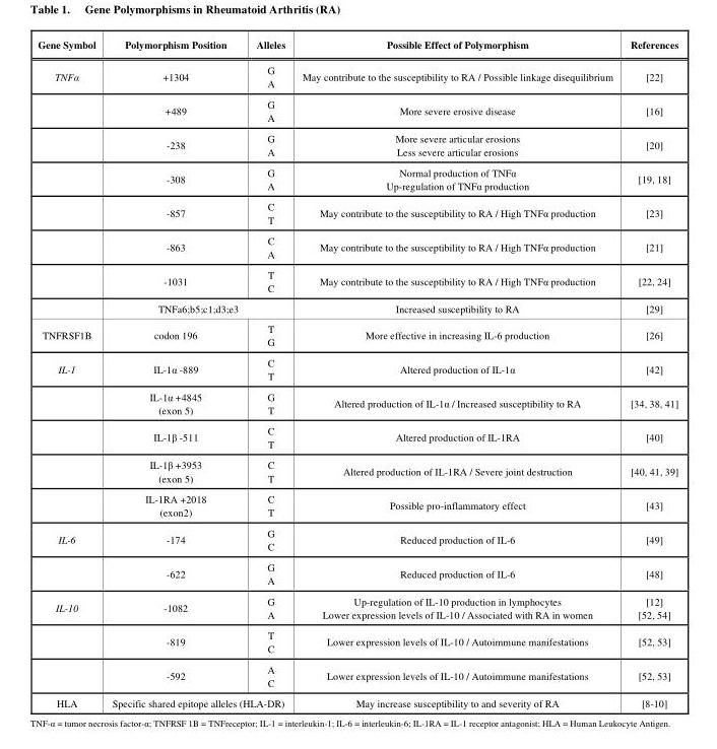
<table><thead><tr><td>Gene Symbol</td><td>Polymorphism Position</td><td>Alleles</td><td>Possible Effect of Polymorphism</td><td>References</td></tr></thead><tbody><tr><td rowspan="8">TNFα</td><td>+1304</td><td>G A</td><td>May contribute to the susceptibility to RA / Possible linkage disequilibrium</td><td>[22]</td></tr><tr><td>+489</td><td>G A</td><td>More severe erosive disease</td><td>[16]</td></tr><tr><td>-238</td><td>G A</td><td>More severe articular erosions Less severe articular erosions</td><td>[20]</td></tr><tr><td>-308</td><td>G A</td><td>Normal production of TNFα Up-regulation of TNFα production</td><td>[19, 18]</td></tr><tr><td>-857</td><td>C T</td><td>May contribute to the susceptibility to RA / High TNFα production</td><td>[23]</td></tr><tr><td>-863</td><td>C A</td><td>May contribute to the susceptibility to RA / High TNFα production</td><td>[21]</td></tr><tr><td>-1031</td><td>T C</td><td>May contribute to the susceptibility to RA / High TNFα production</td><td>[22, 24]</td></tr><tr><td colspan="2">TNFa6;b5;c1;d3;e3</td><td>Increased susceptibility to RA</td><td>[29]</td></tr><tr><td>TNFRSF1B</td><td>codon 196</td><td>T G</td><td>More effective in increasing IL-6 production</td><td>[26]</td></tr><tr><td rowspan="5">IL-1</td><td>IL-1α -889</td><td>C T</td><td>Altered production of IL-1α</td><td>[42]</td></tr><tr><td>IL-1α +4845 (exon 5)</td><td>G T</td><td>Altered production of IL-1α / Increased susceptibility to RA</td><td>[34, 38, 41]</td></tr><tr><td>IL-1β -511</td><td>C T</td><td>Altered production of IL-1RA</td><td>[40]</td></tr><tr><td>IL-1β +3953 (exon 5)</td><td>C T</td><td>Altered production of IL-1RA / Severe joint destruction</td><td>[40, 41, 39]</td></tr><tr><td>IL-1RA +2018 (exon2)</td><td>C T</td><td>Possible pro-inflammatory effect</td><td>[43]</td></tr><tr><td rowspan="2">IL-6</td><td>-174</td><td>G C</td><td>Reduced production of IL-6</td><td>[49]</td></tr><tr><td>-622</td><td>G A</td><td>Reduced production of IL-6</td><td>[48]</td></tr><tr><td rowspan="3">IL-10</td><td>-1082</td><td>G A</td><td>Up-regulation of IL-10 production in lymphocytes Lower expression levels of IL-10 / Associated with RA in women</td><td>[12] [52, 54]</td></tr><tr><td>-819</td><td>T C</td><td>Lower expression levels of IL-10 / Autoimmune manifestations</td><td>[52, 53]</td></tr><tr><td>-592</td><td>A C</td><td>Lower expression levels of IL-10 / Autoimmune manifestations</td><td>[52, 53]</td></tr><tr><td>HLA</td><td colspan="2">Specific shared epitope alleles (HLA-DR)</td><td>May increase susceptibility to and severity of RA</td><td>[8-10]</td></tr></tbody></table>